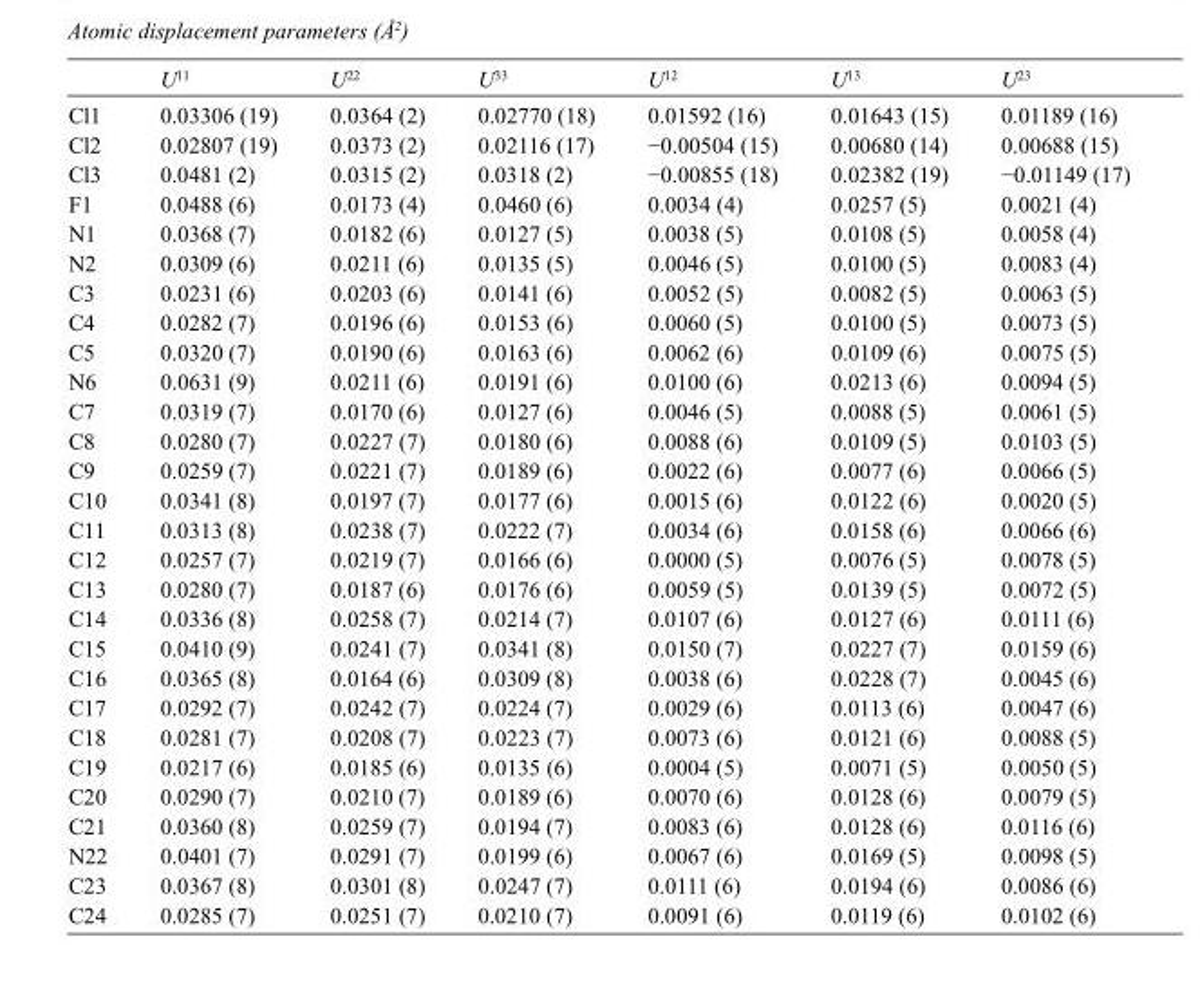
<table><thead><tr><td></td><td>U<sup>11</sup></td><td>U<sup>22</sup></td><td>U<sup>33</sup></td><td>U<sup>12</sup></td><td>U<sup>13</sup></td><td>U<sup>23</sup></td></tr></thead><tbody><tr><td>Cl1</td><td>0.03306 (19)</td><td>0.0364 (2)</td><td>0.02770 (18)</td><td>0.01592 (16)</td><td>0.01643 (15)</td><td>0.01189 (16)</td></tr><tr><td>Cl2</td><td>0.02807 (19)</td><td>0.0373 (2)</td><td>0.02116 (17)</td><td>−0.00504 (15)</td><td>0.00680 (14)</td><td>0.00688 (15)</td></tr><tr><td>Cl3</td><td>0.0481 (2)</td><td>0.0315 (2)</td><td>0.0318 (2)</td><td>−0.00855 (18)</td><td>0.02382 (19)</td><td>−0.01149 (17)</td></tr><tr><td>F1</td><td>0.0488 (6)</td><td>0.0173 (4)</td><td>0.0460 (6)</td><td>0.0034 (4)</td><td>0.0257 (5)</td><td>0.0021 (4)</td></tr><tr><td>N1</td><td>0.0368 (7)</td><td>0.0182 (6)</td><td>0.0127 (5)</td><td>0.0038 (5)</td><td>0.0108 (5)</td><td>0.0058 (4)</td></tr><tr><td>N2</td><td>0.0309 (6)</td><td>0.0211 (6)</td><td>0.0135 (5)</td><td>0.0046 (5)</td><td>0.0100 (5)</td><td>0.0083 (4)</td></tr><tr><td>C3</td><td>0.0231 (6)</td><td>0.0203 (6)</td><td>0.0141 (6)</td><td>0.0052 (5)</td><td>0.0082 (5)</td><td>0.0063 (5)</td></tr><tr><td>C4</td><td>0.0282 (7)</td><td>0.0196 (6)</td><td>0.0153 (6)</td><td>0.0060 (5)</td><td>0.0100 (5)</td><td>0.0073 (5)</td></tr><tr><td>C5</td><td>0.0320 (7)</td><td>0.0190 (6)</td><td>0.0163 (6)</td><td>0.0062 (6)</td><td>0.0109 (6)</td><td>0.0075 (5)</td></tr><tr><td>N6</td><td>0.0631 (9)</td><td>0.0211 (6)</td><td>0.0191 (6)</td><td>0.0100 (6)</td><td>0.0213 (6)</td><td>0.0094 (5)</td></tr><tr><td>C7</td><td>0.0319 (7)</td><td>0.0170 (6)</td><td>0.0127 (6)</td><td>0.0046 (5)</td><td>0.0088 (5)</td><td>0.0061 (5)</td></tr><tr><td>C8</td><td>0.0280 (7)</td><td>0.0227 (7)</td><td>0.0180 (6)</td><td>0.0088 (6)</td><td>0.0109 (5)</td><td>0.0103 (5)</td></tr><tr><td>C9</td><td>0.0259 (7)</td><td>0.0221 (7)</td><td>0.0189 (6)</td><td>0.0022 (6)</td><td>0.0077 (6)</td><td>0.0066 (5)</td></tr><tr><td>C10</td><td>0.0341 (8)</td><td>0.0197 (7)</td><td>0.0177 (6)</td><td>0.0015 (6)</td><td>0.0122 (6)</td><td>0.0020 (5)</td></tr><tr><td>C11</td><td>0.0313 (8)</td><td>0.0238 (7)</td><td>0.0222 (7)</td><td>0.0034 (6)</td><td>0.0158 (6)</td><td>0.0066 (6)</td></tr><tr><td>C12</td><td>0.0257 (7)</td><td>0.0219 (7)</td><td>0.0166 (6)</td><td>0.0000 (5)</td><td>0.0076 (5)</td><td>0.0078 (5)</td></tr><tr><td>C13</td><td>0.0280 (7)</td><td>0.0187 (6)</td><td>0.0176 (6)</td><td>0.0059 (5)</td><td>0.0139 (5)</td><td>0.0072 (5)</td></tr><tr><td>C14</td><td>0.0336 (8)</td><td>0.0258 (7)</td><td>0.0214 (7)</td><td>0.0107 (6)</td><td>0.0127 (6)</td><td>0.0111 (6)</td></tr><tr><td>C15</td><td>0.0410 (9)</td><td>0.0241 (7)</td><td>0.0341 (8)</td><td>0.0150 (7)</td><td>0.0227 (7)</td><td>0.0159 (6)</td></tr><tr><td>C16</td><td>0.0365 (8)</td><td>0.0164 (6)</td><td>0.0309 (8)</td><td>0.0038 (6)</td><td>0.0228 (7)</td><td>0.0045 (6)</td></tr><tr><td>C17</td><td>0.0292 (7)</td><td>0.0242 (7)</td><td>0.0224 (7)</td><td>0.0029 (6)</td><td>0.0113 (6)</td><td>0.0047 (6)</td></tr><tr><td>C18</td><td>0.0281 (7)</td><td>0.0208 (7)</td><td>0.0223 (7)</td><td>0.0073 (6)</td><td>0.0121 (6)</td><td>0.0088 (5)</td></tr><tr><td>C19</td><td>0.0217 (6)</td><td>0.0185 (6)</td><td>0.0135 (6)</td><td>0.0004 (5)</td><td>0.0071 (5)</td><td>0.0050 (5)</td></tr><tr><td>C20</td><td>0.0290 (7)</td><td>0.0210 (7)</td><td>0.0189 (6)</td><td>0.0070 (6)</td><td>0.0128 (6)</td><td>0.0079 (5)</td></tr><tr><td>C21</td><td>0.0360 (8)</td><td>0.0259 (7)</td><td>0.0194 (7)</td><td>0.0083 (6)</td><td>0.0128 (6)</td><td>0.0116 (6)</td></tr><tr><td>N22</td><td>0.0401 (7)</td><td>0.0291 (7)</td><td>0.0199 (6)</td><td>0.0067 (6)</td><td>0.0169 (5)</td><td>0.0098 (5)</td></tr><tr><td>C23</td><td>0.0367 (8)</td><td>0.0301 (8)</td><td>0.0247 (7)</td><td>0.0111 (6)</td><td>0.0194 (6)</td><td>0.0086 (6)</td></tr><tr><td>C24</td><td>0.0285 (7)</td><td>0.0251 (7)</td><td>0.0210 (7)</td><td>0.0091 (6)</td><td>0.0119 (6)</td><td>0.0102 (6)</td></tr></tbody></table>